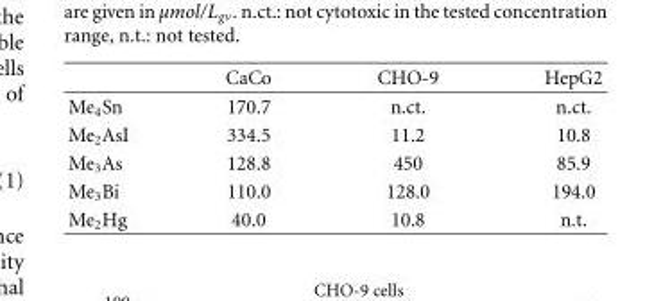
<table><thead><tr><td></td><td>CaCo</td><td>CHO-9</td><td>HepG2</td></tr></thead><tbody><tr><td>Me<sub>4</sub>Sn</td><td>170.7</td><td>n.ct.</td><td>n.ct.</td></tr><tr><td>Me<sub>2</sub>AsI</td><td>334.5</td><td>11.2</td><td>10.8</td></tr><tr><td>Me<sub>3</sub>As</td><td>128.8</td><td>450</td><td>85.9</td></tr><tr><td>Me<sub>3</sub>Bi</td><td>110.0</td><td>128.0</td><td>194.0</td></tr><tr><td>Me<sub>2</sub>Hg</td><td>40.0</td><td>10.8</td><td>n.t.</td></tr></tbody></table>